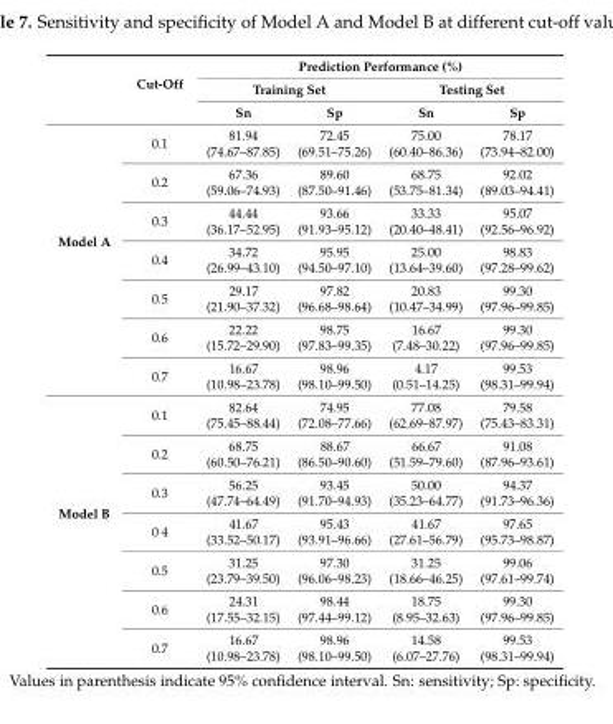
<table><thead><tr><td rowspan="3"></td><td rowspan="3">Cut-Off</td><td colspan="4">Prediction Performance (%)</td></tr><tr><td colspan="2">Training Set</td><td colspan="2">Testing Set</td></tr><tr><td>Sn</td><td>Sp</td><td>Sn</td><td>Sp</td></tr></thead><tbody><tr><td rowspan="7">Model A</td><td>0.1</td><td>81.94 (74.67–87.85)</td><td>72.45 (69.51–75.26)</td><td>75.00 (60.40–86.36)</td><td>78.17 (73.94–82.00)</td></tr><tr><td>0.2</td><td>67.36 (59.06–74.93)</td><td>89.60 (87.50–91.46)</td><td>68.75 (53.75–81.34)</td><td>92.02 (89.03–94.41)</td></tr><tr><td>0.3</td><td>44.44 (36.17–52.95)</td><td>93.66 (91.93–95.12)</td><td>33.33 (20.40–48.41)</td><td>95.07 (92.56–96.92)</td></tr><tr><td>0.4</td><td>34.72 (26.99–43.10)</td><td>95.95 (94.50–97.10)</td><td>25.00 (13.64–39.60)</td><td>98.83 (97.28–99.62)</td></tr><tr><td>0.5</td><td>29.17 (21.90–37.32)</td><td>97.82 (96.68–98.64)</td><td>20.83 (10.47–34.99)</td><td>99.30 (97.96–99.85)</td></tr><tr><td>0.6</td><td>22.22 (15.72–29.90)</td><td>98.75 (97.83–99.35)</td><td>16.67 (7.48–30.22)</td><td>99.30 (97.96–99.85)</td></tr><tr><td>0.7</td><td>16.67 (10.98–23.78)</td><td>98.96 (98.10–99.50)</td><td>4.17 (0.51–14.25)</td><td>99.53 (98.31–99.94)</td></tr><tr><td rowspan="7">Model B</td><td>0.1</td><td>82.64 (75.45–88.44)</td><td>74.95 (72.08–77.66)</td><td>77.08 (62.69–87.97)</td><td>79.58 (75.43–83.31)</td></tr><tr><td>0.2</td><td>68.75 (60.50–76.21)</td><td>88.67 (86.50–90.60)</td><td>66.67 (51.59–79.60)</td><td>91.08 (87.96–93.61)</td></tr><tr><td>0.3</td><td>56.25 (47.74–64.49)</td><td>93.45 (91.70–94.93)</td><td>50.00 (35.23–64.77)</td><td>94.37 (91.73–96.36)</td></tr><tr><td>0 4</td><td>41.67 (33.52–50.17)</td><td>95.43 (93.91–96.66)</td><td>41.67 (27.61–56.79)</td><td>97.65 (95.73–98.87)</td></tr><tr><td>0.5</td><td>31.25 (23.79–39.50)</td><td>97.30 (96.06–98.23)</td><td>31.25 (18.66–46.25)</td><td>99.06 (97.61–99.74)</td></tr><tr><td>0.6</td><td>24.31 (17.55–32.15)</td><td>98.44 (97.44–99.12)</td><td>18.75 (8.95–32.63)</td><td>99.30 (97.96–99.85)</td></tr><tr><td>0.7</td><td>16.67 (10.98–23.78)</td><td>98.96 (98.10–99.50)</td><td>14.58 (6.07–27.76)</td><td>99.53 (98.31–99.94)</td></tr></tbody></table>